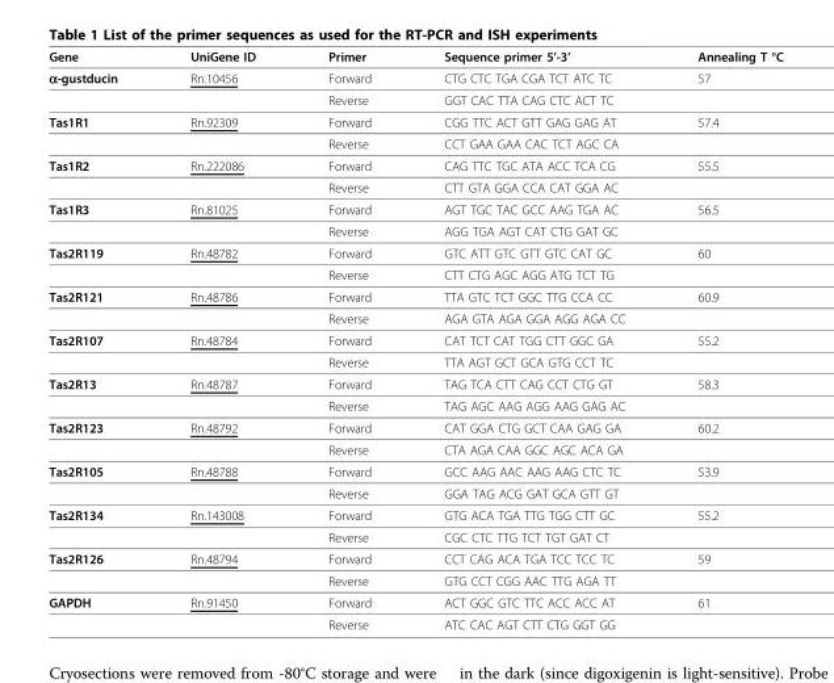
<table><thead><tr><td>Gene</td><td>UniGene ID</td><td>Primer</td><td>Sequence primer 5’-3’</td><td>Annealing T °C</td></tr></thead><tbody><tr><td rowspan="2">α-gustducin</td><td>Rn.10456</td><td>Forward</td><td>CTG CTC TGA CGA TCT ATC TC</td><td>57</td></tr><tr><td></td><td>Reverse</td><td>GGT CAC TTA CAG CTC ACT TC</td><td></td></tr><tr><td rowspan="2">Tas1R1</td><td>Rn.92309</td><td>Forward</td><td>CGG TTC ACT GTT GAG GAG AT</td><td>57.4</td></tr><tr><td></td><td>Reverse</td><td>CCT GAA GAA CAC TCT AGC CA</td><td></td></tr><tr><td rowspan="2">Tas1R2</td><td>Rn.222086</td><td>Forward</td><td>CAG TTC TGC ATA ACC TCA CG</td><td>55.5</td></tr><tr><td></td><td>Reverse</td><td>CTT GTA GGA CCA CAT GGA AC</td><td></td></tr><tr><td rowspan="2">Tas1R3</td><td>Rn.81025</td><td>Forward</td><td>AGT TGC TAC GCC AAG TGA AC</td><td>56.5</td></tr><tr><td></td><td>Reverse</td><td>AGG TGA AGT CAT CTG GAT GC</td><td></td></tr><tr><td rowspan="2">Tas2R119</td><td>Rn.48782</td><td>Forward</td><td>GTC ATT GTC GTT GTC CAT GC</td><td>60</td></tr><tr><td></td><td>Reverse</td><td>CTT CTG AGC AGG ATG TCT TG</td><td></td></tr><tr><td rowspan="2">Tas2R121</td><td>Rn.48786</td><td>Forward</td><td>TTA GTC TCT GGC TTG CCA CC</td><td>60.9</td></tr><tr><td></td><td>Reverse</td><td>AGA GTA AGA GGA AGG AGA CC</td><td></td></tr><tr><td rowspan="2">Tas2R107</td><td>Rn.48784</td><td>Forward</td><td>CAT TCT CAT TGG CTT GGC GA</td><td>55.2</td></tr><tr><td></td><td>Reverse</td><td>TTA AGT GCT GCA GTG CCT TC</td><td></td></tr><tr><td rowspan="2">Tas2R13</td><td>Rn.48787</td><td>Forward</td><td>TAG TCA CTT CAG CCT CTG GT</td><td>58.3</td></tr><tr><td></td><td>Reverse</td><td>TAG AGC AAG AGG AAG GAG AC</td><td></td></tr><tr><td rowspan="2">Tas2R123</td><td>Rn.48792</td><td>Forward</td><td>CAT GGA CTG GCT CAA GAG GA</td><td>60.2</td></tr><tr><td></td><td>Reverse</td><td>CTA AGA CAA GGC AGC ACA GA</td><td></td></tr><tr><td rowspan="2">Tas2R105</td><td>Rn.48788</td><td>Forward</td><td>GCC AAG AAC AAG AAG CTC TC</td><td>53.9</td></tr><tr><td></td><td>Reverse</td><td>GGA TAG ACG GAT GCA GTT GT</td><td></td></tr><tr><td rowspan="2">Tas2R134</td><td>Rn.143008</td><td>Forward</td><td>GTG ACA TGA TTG TGG CTT GC</td><td>55.2</td></tr><tr><td></td><td>Reverse</td><td>CGC CTC TTG TCT TGT GAT CT</td><td></td></tr><tr><td rowspan="2">Tas2R126</td><td>Rn.48794</td><td>Forward</td><td>CCT CAG ACA TGA TCC TCC TC</td><td>59</td></tr><tr><td></td><td>Reverse</td><td>GTG CCT CGG AAC TTG AGA TT</td><td></td></tr><tr><td rowspan="2">GAPDH</td><td>Rn.91450</td><td>Forward</td><td>ACT GGC GTC TTC ACC ACC AT</td><td>61</td></tr><tr><td></td><td>Reverse</td><td>ATC CAC AGT CTT CTG GGT GG</td><td></td></tr></tbody></table>